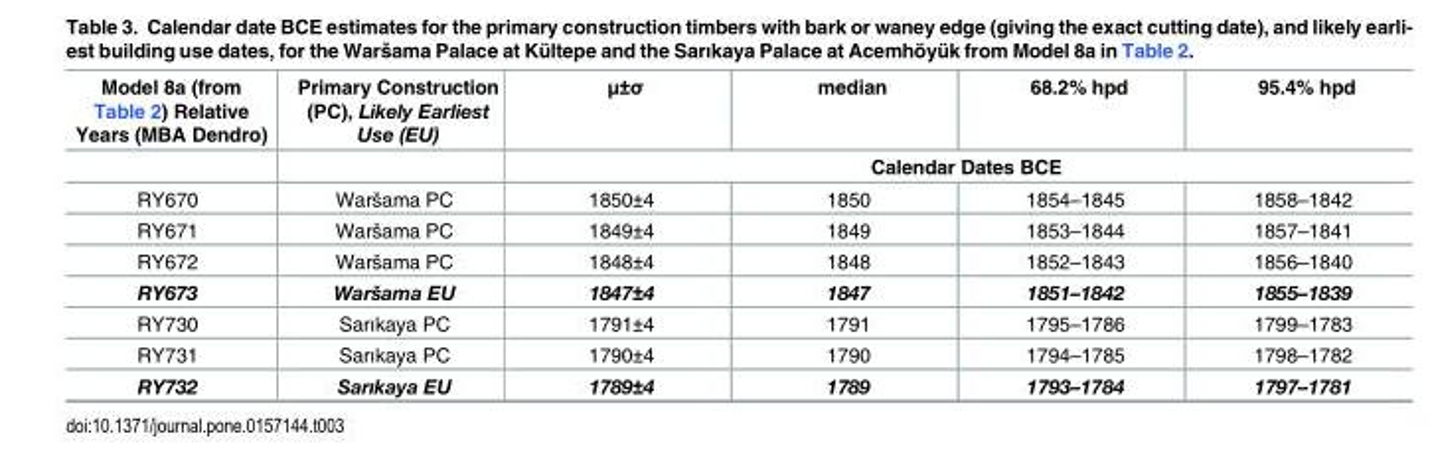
<table><thead><tr><td rowspan="2">Model 8a (from Table 2) Relative Years (MBA Dendro)</td><td rowspan="2">Primary Construction (PC), Likely Earliest Use (EU)</td><td>μ±σ</td><td>median</td><td>68.2% hpd</td><td>95.4% hpd</td></tr><tr><td colspan="4">Calendar Dates BCE</td></tr></thead><tbody><tr><td>RY670</td><td>Waršama PC</td><td>1850±4</td><td>1850</td><td>1854–1845</td><td>1858–1842</td></tr><tr><td>RY671</td><td>Waršama PC</td><td>1849±4</td><td>1849</td><td>1853–1844</td><td>1857–1841</td></tr><tr><td>RY672</td><td>Waršama PC</td><td>1848±4</td><td>1848</td><td>1852–1843</td><td>1856–1840</td></tr><tr><td>RY673</td><td>Waršama EU</td><td>1847±4</td><td>1847</td><td>1851–1842</td><td>1855–1839</td></tr><tr><td>RY730</td><td>Sarıkaya PC</td><td>1791±4</td><td>1791</td><td>1795–1786</td><td>1799–1783</td></tr><tr><td>RY731</td><td>Sarıkaya PC</td><td>1790±4</td><td>1790</td><td>1794–1785</td><td>1798–1782</td></tr><tr><td>RY732</td><td>Sarıkaya EU</td><td>1789±4</td><td>1789</td><td>1793–1784</td><td>1797–1781</td></tr></tbody></table>